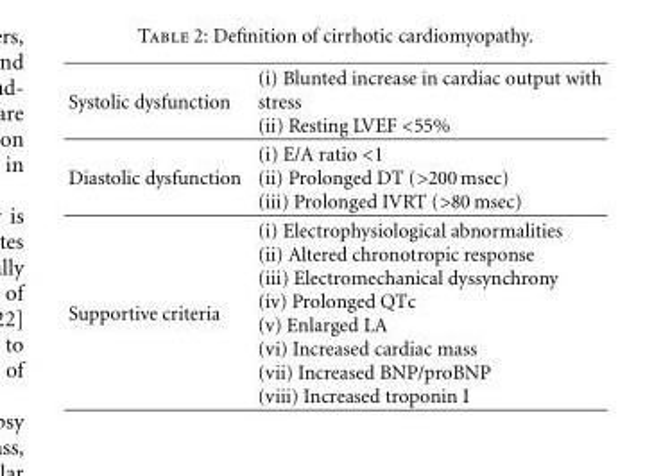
<table><tbody><tr><td>Systolic dysfunction</td><td>(i) Blunted increase in cardiac output with stress (ii) Resting LVEF &lt;55%</td></tr><tr><td>Diastolic dysfunction</td><td>(i) E/A ratio &lt;1 (ii) Prolonged DT (&gt;200 msec) (iii) Prolonged IVRT (&gt;80 msec)</td></tr><tr><td>Supportive criteria</td><td>(i) Electrophysiological abnormalities (ii) Altered chronotropic response (iii) Electromechanical dyssynchrony (iv) Prolonged QTc (v) Enlarged LA (vi) Increased cardiac mass (vii) Increased BNP/proBNP (viii) Increased troponin I</td></tr></tbody></table>